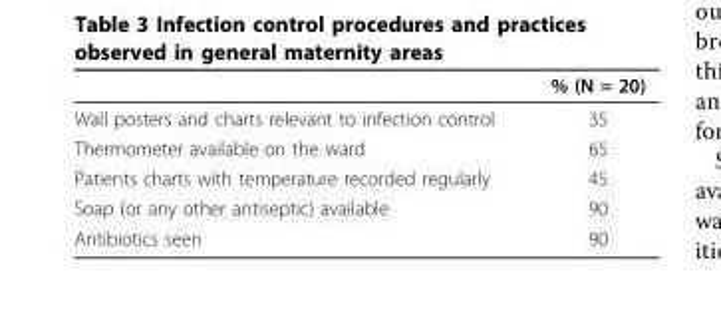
<table><thead><tr><td></td><td>% (N = 20)</td></tr></thead><tbody><tr><td>Wall posters and charts relevant to infection control</td><td>35</td></tr><tr><td>Thermometer available on the ward</td><td>65</td></tr><tr><td>Patients charts with temperature recorded regularly</td><td>45</td></tr><tr><td>Soap (or any other antiseptic) available</td><td>90</td></tr><tr><td>Antibiotics seen</td><td>90</td></tr></tbody></table>